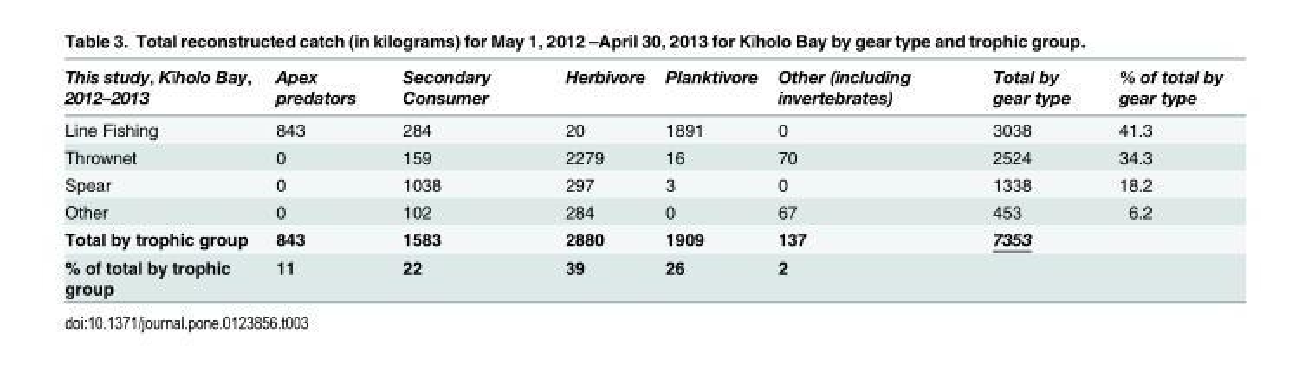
<table><thead><tr><td>This study, Kīholo Bay, 2012–2013</td><td>Apex predators</td><td>Secondary Consumer</td><td>Herbivore</td><td>Planktivore</td><td>Other (including invertebrates)</td><td>Total by gear type</td><td>% of total by gear type</td></tr></thead><tbody><tr><td>Line Fishing</td><td>843</td><td>284</td><td>20</td><td>1891</td><td>0</td><td>3038</td><td>41.3</td></tr><tr><td>Thrownet</td><td>0</td><td>159</td><td>2279</td><td>16</td><td>70</td><td>2524</td><td>34.3</td></tr><tr><td>Spear</td><td>0</td><td>1038</td><td>297</td><td>3</td><td>0</td><td>1338</td><td>18.2</td></tr><tr><td>Other</td><td>0</td><td>102</td><td>284</td><td>0</td><td>67</td><td>453</td><td>6.2</td></tr><tr><td>Total by trophic group</td><td>843</td><td>1583</td><td>2880</td><td>1909</td><td>137</td><td>7353</td><td></td></tr><tr><td>% of total by trophic group</td><td>11</td><td>22</td><td>39</td><td>26</td><td>2</td><td></td><td></td></tr></tbody></table>